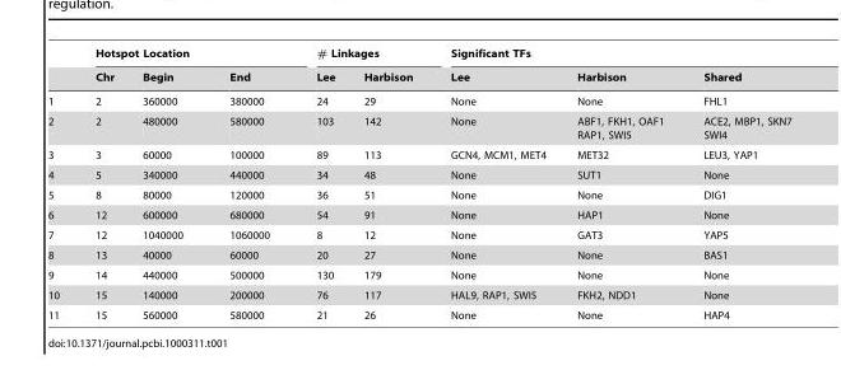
<table><thead><tr><td rowspan="2"></td><td colspan="3">Hotspot Location</td><td colspan="2"># Linkages</td><td colspan="3">Significant TFs</td></tr><tr><td>Chr</td><td>Begin</td><td>End</td><td>Lee</td><td>Harbison</td><td>Lee</td><td>Harbison</td><td>Shared</td></tr></thead><tbody><tr><td>1</td><td>2</td><td>360000</td><td>380000</td><td>24</td><td>29</td><td>None</td><td>None</td><td>FHL1</td></tr><tr><td>2</td><td>2</td><td>480000</td><td>580000</td><td>103</td><td>142</td><td>None</td><td>ABF1, FKH1, OAF1 RAP1, SWI5</td><td>ACE2, MBP1, SKN7 SWI4</td></tr><tr><td>3</td><td>3</td><td>60000</td><td>100000</td><td>89</td><td>113</td><td>GCN4, MCM1, MET4</td><td>MET32</td><td>LEU3, YAP1</td></tr><tr><td>4</td><td>5</td><td>340000</td><td>440000</td><td>34</td><td>48</td><td>None</td><td>SUT1</td><td>None</td></tr><tr><td>5</td><td>8</td><td>80000</td><td>120000</td><td>36</td><td>51</td><td>None</td><td>None</td><td>DIG1</td></tr><tr><td>6</td><td>12</td><td>600000</td><td>680000</td><td>54</td><td>91</td><td>None</td><td>HAP1</td><td>None</td></tr><tr><td>7</td><td>12</td><td>1040000</td><td>1060000</td><td>8</td><td>12</td><td>None</td><td>GAT3</td><td>YAP5</td></tr><tr><td>8</td><td>13</td><td>40000</td><td>60000</td><td>20</td><td>27</td><td>None</td><td>None</td><td>BAS1</td></tr><tr><td>9</td><td>14</td><td>440000</td><td>500000</td><td>130</td><td>179</td><td>None</td><td>None</td><td>None</td></tr><tr><td>10</td><td>15</td><td>140000</td><td>200000</td><td>76</td><td>117</td><td>HAL9, RAP1, SWI5</td><td>FKH2, NDD1</td><td>None</td></tr><tr><td>11</td><td>15</td><td>560000</td><td>580000</td><td>21</td><td>26</td><td>None</td><td>None</td><td>HAP4</td></tr></tbody></table>